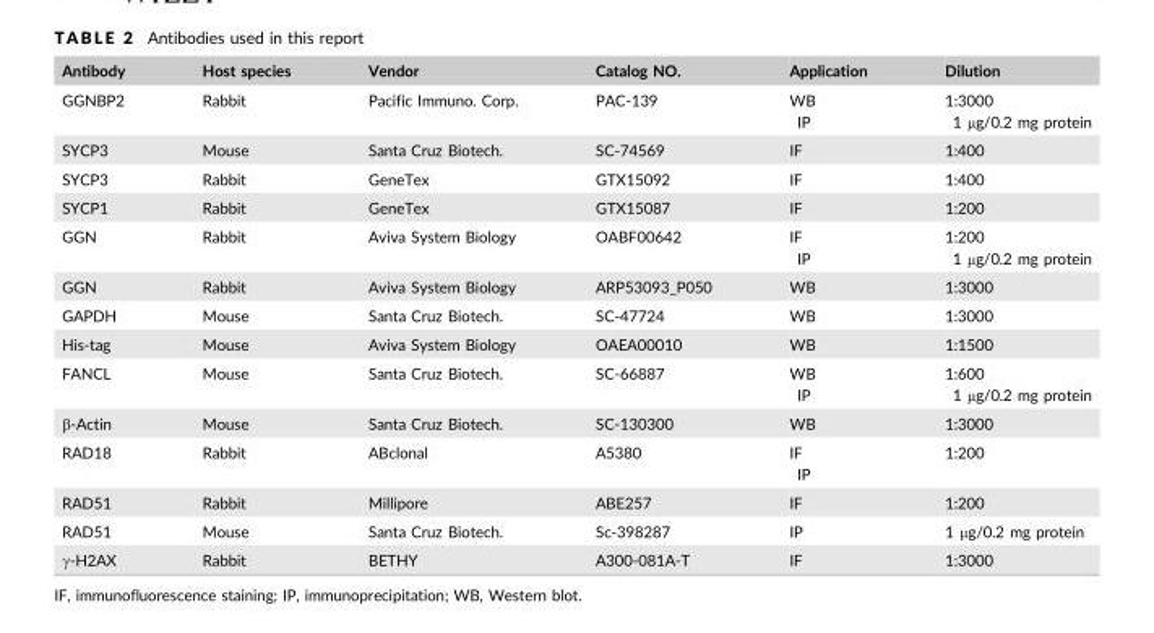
<table><thead><tr><td>Antibody</td><td>Host species</td><td>Vendor</td><td>Catalog NO.</td><td>Application</td><td>Dilution</td></tr></thead><tbody><tr><td>GGNBP2</td><td>Rabbit</td><td>Pacific Immuno. Corp.</td><td>PAC-139</td><td>WB IP</td><td>1:3000 1 μg/0.2 mg protein</td></tr><tr><td>SYCP3</td><td>Mouse</td><td>Santa Cruz Biotech.</td><td>SC-74569</td><td>IF</td><td>1:400</td></tr><tr><td>SYCP3</td><td>Rabbit</td><td>GeneTex</td><td>GTX15092</td><td>IF</td><td>1:400</td></tr><tr><td>SYCP1</td><td>Rabbit</td><td>GeneTex</td><td>GTX15087</td><td>IF</td><td>1:200</td></tr><tr><td>GGN</td><td>Rabbit</td><td>Aviva System Biology</td><td>OABF00642</td><td>IF IP</td><td>1:200 1 μg/0.2 mg protein</td></tr><tr><td>GGN</td><td>Rabbit</td><td>Aviva System Biology</td><td>ARP53093_P050</td><td>WB</td><td>1:3000</td></tr><tr><td>GAPDH</td><td>Mouse</td><td>Santa Cruz Biotech.</td><td>SC-47724</td><td>WB</td><td>1:3000</td></tr><tr><td>His-tag</td><td>Mouse</td><td>Aviva System Biology</td><td>OAEA00010</td><td>WB</td><td>1:1500</td></tr><tr><td>FANCL</td><td>Mouse</td><td>Santa Cruz Biotech.</td><td>SC-66887</td><td>WB IP</td><td>1:600 1 μg/0.2 mg protein</td></tr><tr><td>β-Actin</td><td>Mouse</td><td>Santa Cruz Biotech.</td><td>SC-130300</td><td>WB</td><td>1:3000</td></tr><tr><td>RAD18</td><td>Rabbit</td><td>ABclonal</td><td>A5380</td><td>IF IP</td><td>1:200</td></tr><tr><td>RAD51</td><td>Rabbit</td><td>Millipore</td><td>ABE257</td><td>IF</td><td>1:200</td></tr><tr><td>RAD51</td><td>Mouse</td><td>Santa Cruz Biotech.</td><td>Sc-398287</td><td>IP</td><td>1 μg/0.2 mg protein</td></tr><tr><td>γ-H2AX</td><td>Rabbit</td><td>BETHY</td><td>A300-081A-T</td><td>IF</td><td>1:3000</td></tr></tbody></table>